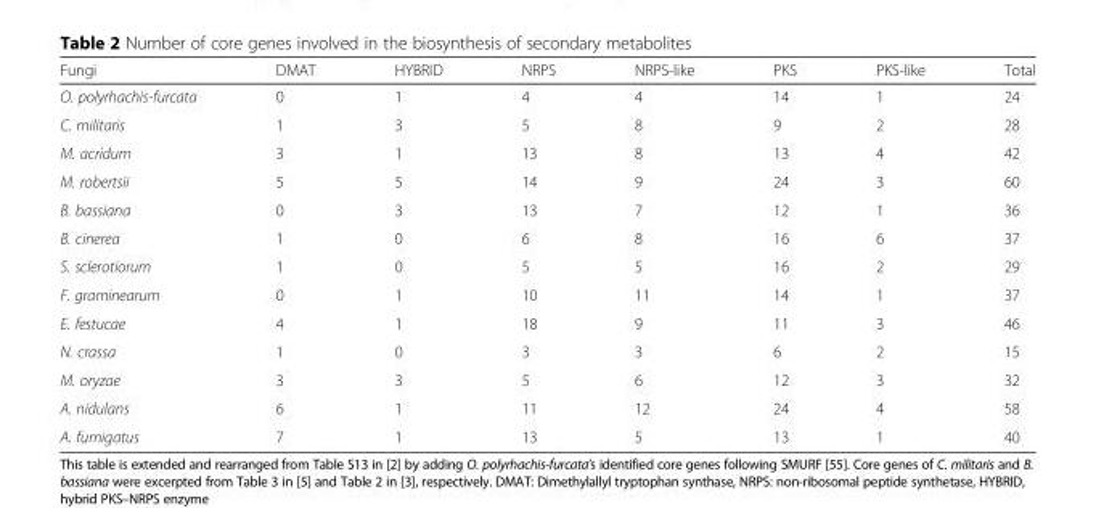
<table><thead><tr><td>Fungi</td><td>DMAT</td><td>HYBRID</td><td>NRPS</td><td>NRPS-like</td><td>PKS</td><td>PKS-like</td><td>Total</td></tr></thead><tbody><tr><td>O. polyrhachis-furcata</td><td>0</td><td>1</td><td>4</td><td>4</td><td>14</td><td>1</td><td>24</td></tr><tr><td>C. militaris</td><td>1</td><td>3</td><td>5</td><td>8</td><td>9</td><td>2</td><td>28</td></tr><tr><td>M. acridum</td><td>3</td><td>1</td><td>13</td><td>8</td><td>13</td><td>4</td><td>42</td></tr><tr><td>M. robertsii</td><td>5</td><td>5</td><td>14</td><td>9</td><td>24</td><td>3</td><td>60</td></tr><tr><td>B. bassiana</td><td>0</td><td>3</td><td>13</td><td>7</td><td>12</td><td>1</td><td>36</td></tr><tr><td>B. cinerea</td><td>1</td><td>0</td><td>6</td><td>8</td><td>16</td><td>6</td><td>37</td></tr><tr><td>S. sclerotiorum</td><td>1</td><td>0</td><td>5</td><td>5</td><td>16</td><td>2</td><td>29</td></tr><tr><td>F. graminearum</td><td>0</td><td>1</td><td>10</td><td>11</td><td>14</td><td>1</td><td>37</td></tr><tr><td>E. festucae</td><td>4</td><td>1</td><td>18</td><td>9</td><td>11</td><td>3</td><td>46</td></tr><tr><td>N. crassa</td><td>1</td><td>0</td><td>3</td><td>3</td><td>6</td><td>2</td><td>15</td></tr><tr><td>M. oryzae</td><td>3</td><td>3</td><td>5</td><td>6</td><td>12</td><td>3</td><td>32</td></tr><tr><td>A. nidulans</td><td>6</td><td>1</td><td>11</td><td>12</td><td>24</td><td>4</td><td>58</td></tr><tr><td>A. fumigatus</td><td>7</td><td>1</td><td>13</td><td>5</td><td>13</td><td>1</td><td>40</td></tr></tbody></table>